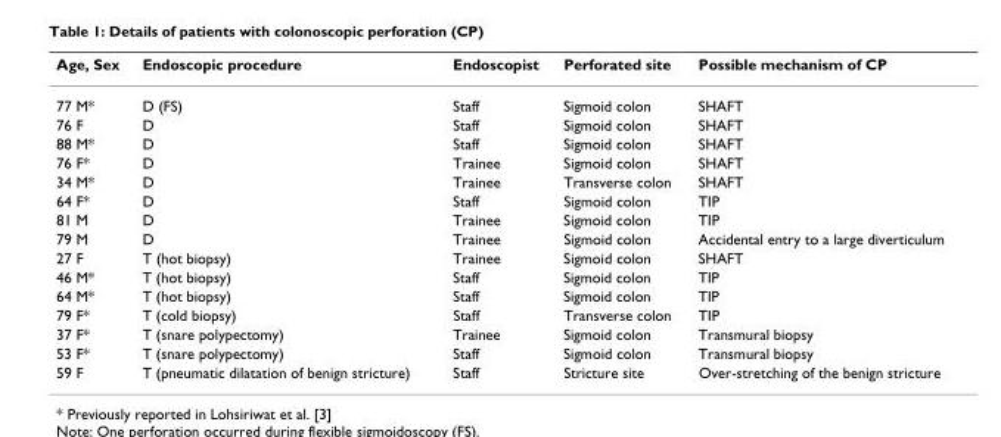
<table><thead><tr><td>Age, Sex</td><td>Endoscopic procedure</td><td>Endoscopist</td><td>Perforated site</td><td>Possible mechanism of CP</td></tr></thead><tbody><tr><td>77 M*</td><td>D (FS)</td><td>Staff</td><td>Sigmoid colon</td><td>SHAFT</td></tr><tr><td>76 F</td><td>D</td><td>Staff</td><td>Sigmoid colon</td><td>SHAFT</td></tr><tr><td>88 M*</td><td>D</td><td>Staff</td><td>Sigmoid colon</td><td>SHAFT</td></tr><tr><td>76 F*</td><td>D</td><td>Trainee</td><td>Sigmoid colon</td><td>SHAFT</td></tr><tr><td>34 M*</td><td>D</td><td>Trainee</td><td>Transverse colon</td><td>SHAFT</td></tr><tr><td>64 F*</td><td>D</td><td>Staff</td><td>Sigmoid colon</td><td>TIP</td></tr><tr><td>81 M</td><td>D</td><td>Trainee</td><td>Sigmoid colon</td><td>TIP</td></tr><tr><td>79 M</td><td>D</td><td>Trainee</td><td>Sigmoid colon</td><td>Accidental entry to a large diverticulum</td></tr><tr><td>27 F</td><td>T (hot biopsy)</td><td>Trainee</td><td>Sigmoid colon</td><td>SHAFT</td></tr><tr><td>46 M*</td><td>T (hot biopsy)</td><td>Staff</td><td>Sigmoid colon</td><td>TIP</td></tr><tr><td>64 M*</td><td>T (hot biopsy)</td><td>Staff</td><td>Sigmoid colon</td><td>TIP</td></tr><tr><td>79 F*</td><td>T (cold biopsy)</td><td>Staff</td><td>Transverse colon</td><td>TIP</td></tr><tr><td>37 F*</td><td>T (snare polypectomy)</td><td>Trainee</td><td>Sigmoid colon</td><td>Transmural biopsy</td></tr><tr><td>53 F*</td><td>T (snare polypectomy)</td><td>Staff</td><td>Sigmoid colon</td><td>Transmural biopsy</td></tr><tr><td>59 F</td><td>T (pneumatic dilatation of benign stricture)</td><td>Staff</td><td>Stricture site</td><td>Over-stretching of the benign stricture</td></tr></tbody></table>